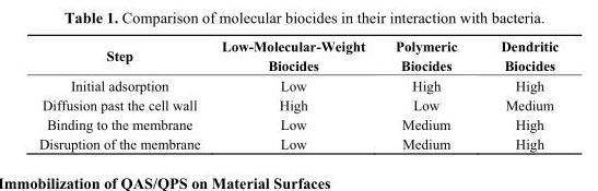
<table><thead><tr><td>Step</td><td>Low-Molecular-Weight Biocides</td><td>Polymeric Biocides</td><td>Dendritic Biocides</td></tr></thead><tbody><tr><td>Initial adsorption</td><td>Low</td><td>High</td><td>High</td></tr><tr><td>Diffusion past the cell wall</td><td>High</td><td>Low</td><td>Medium</td></tr><tr><td>Binding to the membrane</td><td>Low</td><td>Medium</td><td>High</td></tr><tr><td>Disruption of the membrane</td><td>Low</td><td>Medium</td><td>High</td></tr></tbody></table>